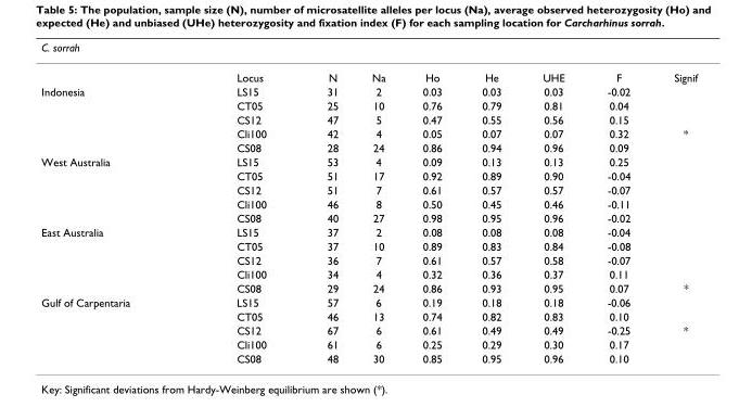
<table><thead><tr><td colspan="9">C. sorrah</td></tr><tr><td></td><td>Locus</td><td>N</td><td>Na</td><td>Ho</td><td>He</td><td>UHE</td><td>F</td><td>Signif</td></tr></thead><tbody><tr><td rowspan="5">Indonesia</td><td>LS15</td><td>31</td><td>2</td><td>0.03</td><td>0.03</td><td>0.03</td><td>-0.02</td><td></td></tr><tr><td>CT05</td><td>25</td><td>10</td><td>0.76</td><td>0.79</td><td>0.81</td><td>0.04</td><td></td></tr><tr><td>CS12</td><td>47</td><td>5</td><td>0.47</td><td>0.55</td><td>0.56</td><td>0.15</td><td></td></tr><tr><td>Cli100</td><td>42</td><td>4</td><td>0.05</td><td>0.07</td><td>0.07</td><td>0.32</td><td>*</td></tr><tr><td>CS08</td><td>28</td><td>24</td><td>0.86</td><td>0.94</td><td>0.96</td><td>0.09</td><td></td></tr><tr><td rowspan="5">West Australia</td><td>LS15</td><td>53</td><td>4</td><td>0.09</td><td>0.13</td><td>0.13</td><td>0.25</td><td></td></tr><tr><td>CT05</td><td>51</td><td>17</td><td>0.92</td><td>0.89</td><td>0.90</td><td>-0.04</td><td></td></tr><tr><td>CS12</td><td>51</td><td>7</td><td>0.61</td><td>0.57</td><td>0.57</td><td>-0.07</td><td></td></tr><tr><td>Cli100</td><td>46</td><td>8</td><td>0.50</td><td>0.45</td><td>0.46</td><td>-0.11</td><td></td></tr><tr><td>CS08</td><td>40</td><td>27</td><td>0.98</td><td>0.95</td><td>0.96</td><td>-0.02</td><td></td></tr><tr><td rowspan="5">East Australia</td><td>LS15</td><td>37</td><td>2</td><td>0.08</td><td>0.08</td><td>0.08</td><td>-0.04</td><td></td></tr><tr><td>CT05</td><td>37</td><td>10</td><td>0.89</td><td>0.83</td><td>0.84</td><td>-0.08</td><td></td></tr><tr><td>CS12</td><td>36</td><td>7</td><td>0.61</td><td>0.57</td><td>0.58</td><td>-0.07</td><td></td></tr><tr><td>Cli100</td><td>34</td><td>4</td><td>0.32</td><td>0.36</td><td>0.37</td><td>0.11</td><td></td></tr><tr><td>CS08</td><td>29</td><td>24</td><td>0.86</td><td>0.93</td><td>0.95</td><td>0.07</td><td>*</td></tr><tr><td rowspan="5">Gulf of Carpentaria</td><td>LS15</td><td>57</td><td>6</td><td>0.19</td><td>0.18</td><td>0.18</td><td>-0.06</td><td></td></tr><tr><td>CT05</td><td>46</td><td>13</td><td>0.74</td><td>0.82</td><td>0.83</td><td>0.10</td><td></td></tr><tr><td>CS12</td><td>67</td><td>6</td><td>0.61</td><td>0.49</td><td>0.49</td><td>-0.25</td><td>*</td></tr><tr><td>Cli100</td><td>61</td><td>6</td><td>0.25</td><td>0.29</td><td>0.30</td><td>0.17</td><td></td></tr><tr><td>CS08</td><td>48</td><td>30</td><td>0.85</td><td>0.95</td><td>0.96</td><td>0.10</td><td></td></tr></tbody></table>